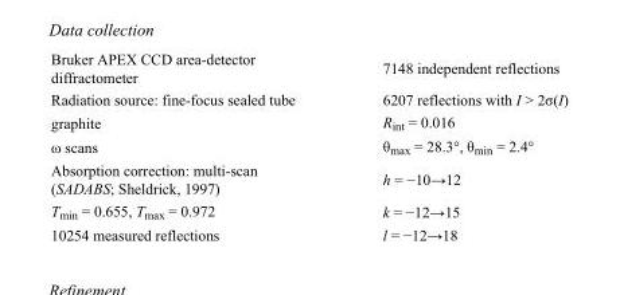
<table><tbody><tr><td>Bruker APEX CCD area-detector diffractometer</td><td>7148 independent reflections</td></tr><tr><td>Radiation source: fine-focus sealed tube</td><td>6207 reflections with I &gt; 2σ(I)</td></tr><tr><td>graphite</td><td>R<sub>int</sub> = 0.016</td></tr><tr><td>ω scans</td><td>θ<sub>max</sub> = 28.3°, θ<sub>min</sub> = 2.4°</td></tr><tr><td>Absorption correction: multi-scan (SADABS; Sheldrick, 1997)</td><td>h = −10→12</td></tr><tr><td>T<sub>min</sub> = 0.655, T<sub>max</sub> = 0.972</td><td>k = −12→15</td></tr><tr><td>10254 measured reflections</td><td>l = −12→18</td></tr></tbody></table>